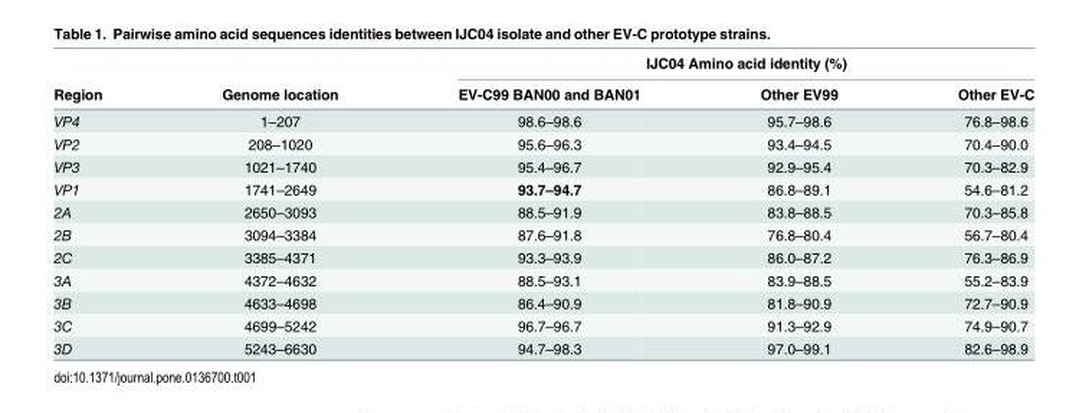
<table><thead><tr><td rowspan="2">Region</td><td rowspan="2">Genome location</td><td colspan="3">IJC04 Amino acid identity (%)</td></tr><tr><td>EV-C99 BAN00 and BAN01</td><td>Other EV99</td><td>Other EV-C</td></tr></thead><tbody><tr><td>VP4</td><td>1–207</td><td>98.6–98.6</td><td>95.7–98.6</td><td>76.8–98.6</td></tr><tr><td>VP2</td><td>208–1020</td><td>95.6–96.3</td><td>93.4–94.5</td><td>70.4–90.0</td></tr><tr><td>VP3</td><td>1021–1740</td><td>95.4–96.7</td><td>92.9–95.4</td><td>70.3–82.9</td></tr><tr><td>VP1</td><td>1741–2649</td><td>93.7–94.7</td><td>86.8–89.1</td><td>54.6–81.2</td></tr><tr><td>2A</td><td>2650–3093</td><td>88.5–91.9</td><td>83.8–88.5</td><td>70.3–85.8</td></tr><tr><td>2B</td><td>3094–3384</td><td>87.6–91.8</td><td>76.8–80.4</td><td>56.7–80.4</td></tr><tr><td>2C</td><td>3385–4371</td><td>93.3–93.9</td><td>86.0–87.2</td><td>76.3–86.9</td></tr><tr><td>3A</td><td>4372–4632</td><td>88.5–93.1</td><td>83.9–88.5</td><td>55.2–83.9</td></tr><tr><td>3B</td><td>4633–4698</td><td>86.4–90.9</td><td>81.8–90.9</td><td>72.7–90.9</td></tr><tr><td>3C</td><td>4699–5242</td><td>96.7–96.7</td><td>91.3–92.9</td><td>74.9–90.7</td></tr><tr><td>3D</td><td>5243–6630</td><td>94.7–98.3</td><td>97.0–99.1</td><td>82.6–98.9</td></tr></tbody></table>